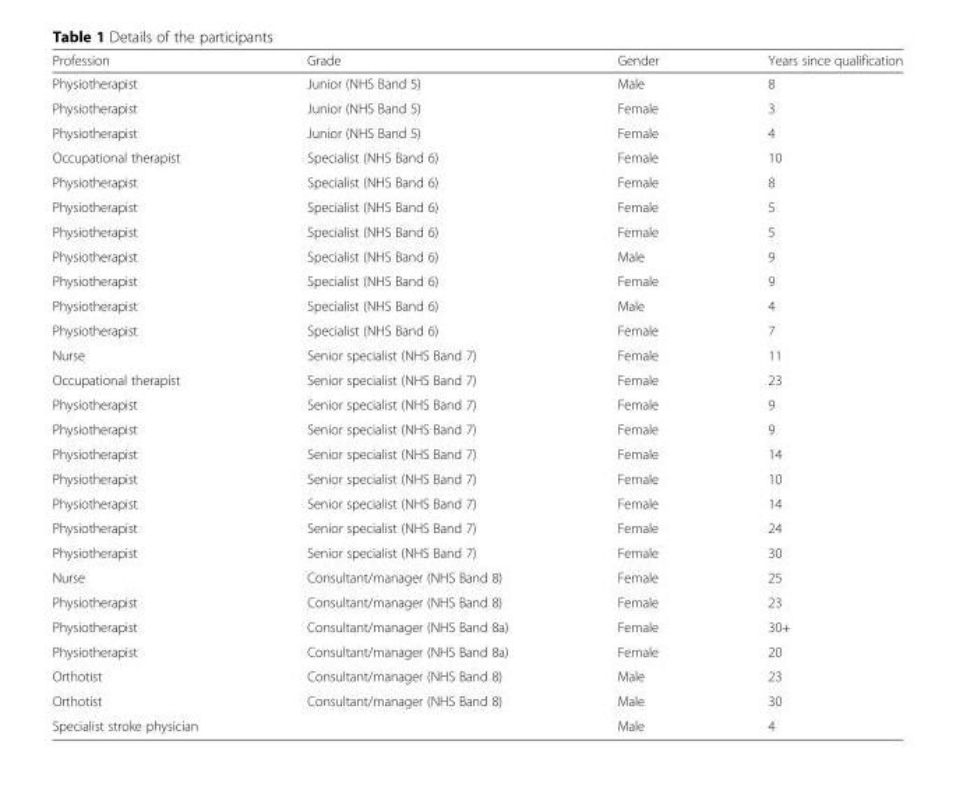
<table><thead><tr><td>Profession</td><td>Grade</td><td>Gender</td><td>Years since qualification</td></tr></thead><tbody><tr><td>Physiotherapist</td><td>Junior (NHS Band 5)</td><td>Male</td><td>8</td></tr><tr><td>Physiotherapist</td><td>Junior (NHS Band 5)</td><td>Female</td><td>3</td></tr><tr><td>Physiotherapist</td><td>Junior (NHS Band 5)</td><td>Female</td><td>4</td></tr><tr><td>Occupational therapist</td><td>Specialist (NHS Band 6)</td><td>Female</td><td>10</td></tr><tr><td>Physiotherapist</td><td>Specialist (NHS Band 6)</td><td>Female</td><td>8</td></tr><tr><td>Physiotherapist</td><td>Specialist (NHS Band 6)</td><td>Female</td><td>5</td></tr><tr><td>Physiotherapist</td><td>Specialist (NHS Band 6)</td><td>Female</td><td>5</td></tr><tr><td>Physiotherapist</td><td>Specialist (NHS Band 6)</td><td>Male</td><td>9</td></tr><tr><td>Physiotherapist</td><td>Specialist (NHS Band 6)</td><td>Female</td><td>9</td></tr><tr><td>Physiotherapist</td><td>Specialist (NHS Band 6)</td><td>Male</td><td>4</td></tr><tr><td>Physiotherapist</td><td>Specialist (NHS Band 6)</td><td>Female</td><td>7</td></tr><tr><td>Nurse</td><td>Senior specialist (NHS Band 7)</td><td>Female</td><td>11</td></tr><tr><td>Occupational therapist</td><td>Senior specialist (NHS Band 7)</td><td>Female</td><td>23</td></tr><tr><td>Physiotherapist</td><td>Senior specialist (NHS Band 7)</td><td>Female</td><td>9</td></tr><tr><td>Physiotherapist</td><td>Senior specialist (NHS Band 7)</td><td>Female</td><td>9</td></tr><tr><td>Physiotherapist</td><td>Senior specialist (NHS Band 7)</td><td>Female</td><td>14</td></tr><tr><td>Physiotherapist</td><td>Senior specialist (NHS Band 7)</td><td>Female</td><td>10</td></tr><tr><td>Physiotherapist</td><td>Senior specialist (NHS Band 7)</td><td>Female</td><td>14</td></tr><tr><td>Physiotherapist</td><td>Senior specialist (NHS Band 7)</td><td>Female</td><td>24</td></tr><tr><td>Physiotherapist</td><td>Senior specialist (NHS Band 7)</td><td>Female</td><td>30</td></tr><tr><td>Nurse</td><td>Consultant/manager (NHS Band 8)</td><td>Female</td><td>25</td></tr><tr><td>Physiotherapist</td><td>Consultant/manager (NHS Band 8)</td><td>Female</td><td>23</td></tr><tr><td>Physiotherapist</td><td>Consultant/manager (NHS Band 8a)</td><td>Female</td><td>30+</td></tr><tr><td>Physiotherapist</td><td>Consultant/manager (NHS Band 8a)</td><td>Female</td><td>20</td></tr><tr><td>Orthotist</td><td>Consultant/manager (NHS Band 8)</td><td>Male</td><td>23</td></tr><tr><td>Orthotist</td><td>Consultant/manager (NHS Band 8)</td><td>Male</td><td>30</td></tr><tr><td>Specialist stroke physician</td><td></td><td>Male</td><td>4</td></tr></tbody></table>